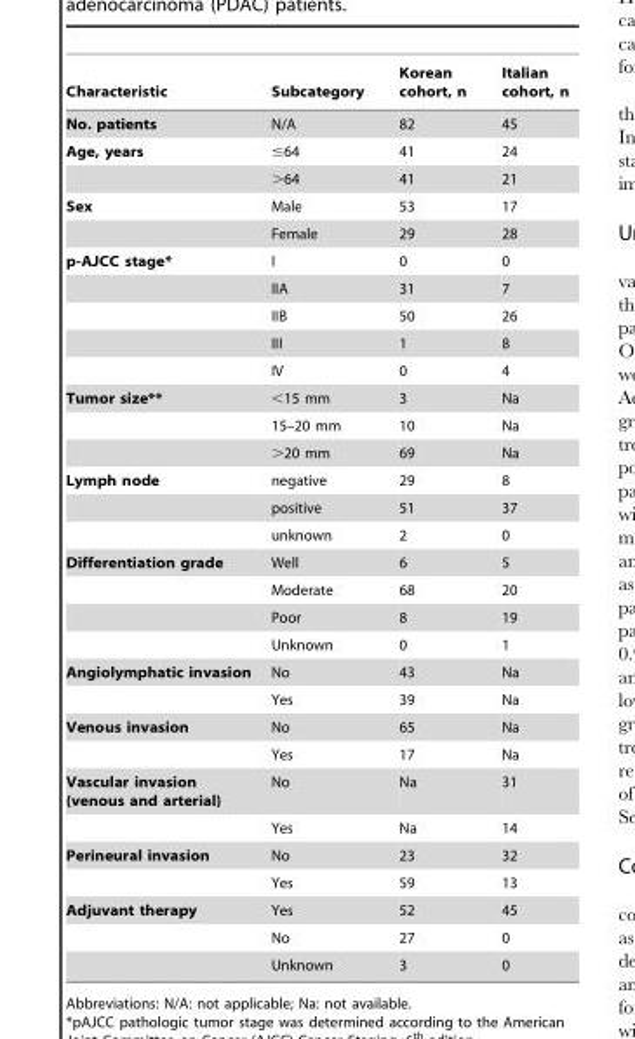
<table><thead><tr><td>Characteristic</td><td>Subcategory</td><td>Korean cohort, n</td><td>Italian cohort, n</td></tr></thead><tbody><tr><td>No. patients</td><td>N/A</td><td>82</td><td>45</td></tr><tr><td rowspan="2">Age, years</td><td>≤64</td><td>41</td><td>24</td></tr><tr><td>&gt;64</td><td>41</td><td>21</td></tr><tr><td rowspan="2">Sex</td><td>Male</td><td>53</td><td>17</td></tr><tr><td>Female</td><td>29</td><td>28</td></tr><tr><td rowspan="5">p-AJCC stage*</td><td>I</td><td>0</td><td>0</td></tr><tr><td>IIA</td><td>31</td><td>7</td></tr><tr><td>IIB</td><td>50</td><td>26</td></tr><tr><td>III</td><td>1</td><td>8</td></tr><tr><td>IV</td><td>0</td><td>4</td></tr><tr><td rowspan="3">Tumor size**</td><td>&lt;15 mm</td><td>3</td><td>Na</td></tr><tr><td>15–20 mm</td><td>10</td><td>Na</td></tr><tr><td>&gt;20 mm</td><td>69</td><td>Na</td></tr><tr><td rowspan="3">Lymph node</td><td>negative</td><td>29</td><td>8</td></tr><tr><td>positive</td><td>51</td><td>37</td></tr><tr><td>unknown</td><td>2</td><td>0</td></tr><tr><td rowspan="4">Differentiation grade</td><td>Well</td><td>6</td><td>5</td></tr><tr><td>Moderate</td><td>68</td><td>20</td></tr><tr><td>Poor</td><td>8</td><td>19</td></tr><tr><td>Unknown</td><td>0</td><td>1</td></tr><tr><td rowspan="2">Angiolymphatic invasion</td><td>No</td><td>43</td><td>Na</td></tr><tr><td>Yes</td><td>39</td><td>Na</td></tr><tr><td rowspan="2">Venous invasion</td><td>No</td><td>65</td><td>Na</td></tr><tr><td>Yes</td><td>17</td><td>Na</td></tr><tr><td rowspan="2">Vascular invasion (venous and arterial)</td><td>No</td><td>Na</td><td>31</td></tr><tr><td>Yes</td><td>Na</td><td>14</td></tr><tr><td rowspan="2">Perineural invasion</td><td>No</td><td>23</td><td>32</td></tr><tr><td>Yes</td><td>59</td><td>13</td></tr><tr><td rowspan="3">Adjuvant therapy</td><td>Yes</td><td>52</td><td>45</td></tr><tr><td>No</td><td>27</td><td>0</td></tr><tr><td>Unknown</td><td>3</td><td>0</td></tr></tbody></table>